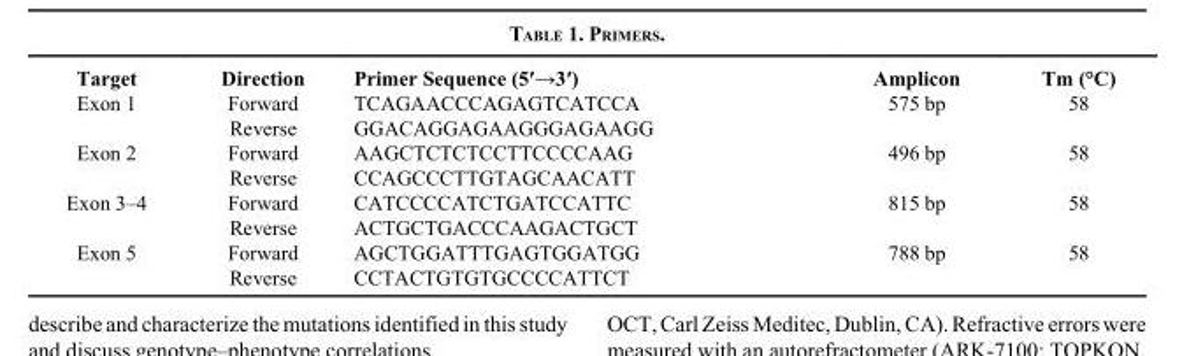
<table><thead><tr><td>Target</td><td>Direction</td><td>Primer Sequence (5′→3′)</td><td>Amplicon</td><td>Tm (°C)</td></tr></thead><tbody><tr><td rowspan="2">Exon 1</td><td>Forward</td><td>TCAGAACCCAGAGTCATCCA</td><td>575 bp</td><td>58</td></tr><tr><td>Reverse</td><td>GGACAGGAGAAGGGAGAAGG</td><td></td><td></td></tr><tr><td rowspan="2">Exon 2</td><td>Forward</td><td>AAGCTCTCTCCTTCCCCAAG</td><td>496 bp</td><td>58</td></tr><tr><td>Reverse</td><td>CCAGCCCTTGTAGCAACATT</td><td></td><td></td></tr><tr><td rowspan="2">Exon 3–4</td><td>Forward</td><td>CATCCCCATCTGATCCATTC</td><td>815 bp</td><td>58</td></tr><tr><td>Reverse</td><td>ACTGCTGACCCAAGACTGCT</td><td></td><td></td></tr><tr><td rowspan="2">Exon 5</td><td>Forward</td><td>AGCTGGATTTGAGTGGATGG</td><td>788 bp</td><td>58</td></tr><tr><td>Reverse</td><td>CCTACTGTGTGCCCCATTCT</td><td></td><td></td></tr></tbody></table>